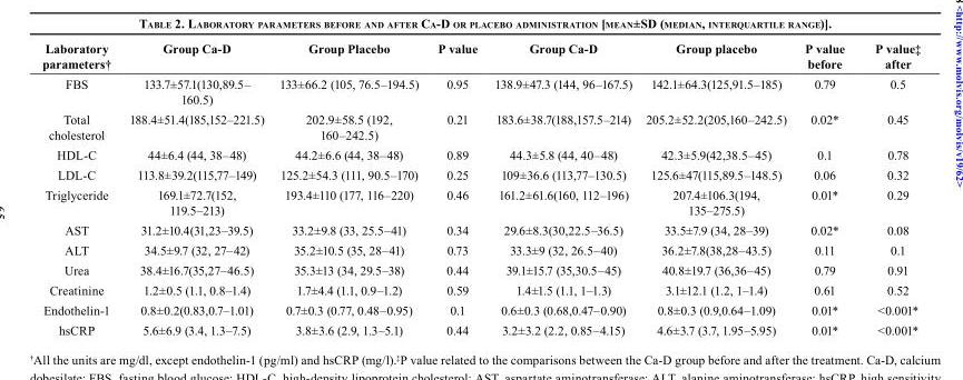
<table><thead><tr><td>Laboratory parameters†</td><td>Group Ca-D</td><td>Group Placebo</td><td>P value</td><td>Group Ca-D</td><td>Group placebo</td><td>P value before</td><td>P value‡ after</td></tr></thead><tbody><tr><td>FBS</td><td>133.7±57.1(130,89.5– 160.5)</td><td>133±66.2 (105, 76.5–194.5)</td><td>0.95</td><td>138.9±47.3 (144, 96–167.5)</td><td>142.1±64.3(125,91.5–185)</td><td>0.79</td><td>0.5</td></tr><tr><td>Total cholesterol</td><td>188.4±51.4(185,152–221.5)</td><td>202.9±58.5 (192, 160–242.5)</td><td>0.21</td><td>183.6±38.7(188,157.5–214)</td><td>205.2±52.2(205,160–242.5)</td><td>0.02*</td><td>0.45</td></tr><tr><td>HDL-C</td><td>44±6.4 (44, 38–48)</td><td>44.2±6.6 (44, 38–48)</td><td>0.89</td><td>44.3±5.8 (44, 40–48)</td><td>42.3±5.9(42,38.5–45)</td><td>0.1</td><td>0.78</td></tr><tr><td>LDL-C</td><td>113.8±39.2(115,77–149)</td><td>125.2±54.3 (111, 90.5–170)</td><td>0.25</td><td>109±36.6 (113,77–130.5)</td><td>125.6±47(115,89.5–148.5)</td><td>0.06</td><td>0.32</td></tr><tr><td>Triglyceride</td><td>169.1±72.7(152, 119.5–213)</td><td>193.4±110 (177, 116–220)</td><td>0.46</td><td>161.2±61.6(160, 112–196)</td><td>207.4±106.3(194, 135–275.5)</td><td>0.01*</td><td>0.29</td></tr><tr><td>AST</td><td>31.2±10.4(31,23–39.5)</td><td>33.2±9.8 (33, 25.5–41)</td><td>0.34</td><td>29.6±8.3(30,22.5–36.5)</td><td>33.5±7.9 (34, 28–39)</td><td>0.02*</td><td>0.08</td></tr><tr><td>ALT</td><td>34.5±9.7 (32, 27–42)</td><td>35.2±10.5 (35, 28–41)</td><td>0.73</td><td>33.3±9 (32, 26.5–40)</td><td>36.2±7.8(38,28–43.5)</td><td>0.11</td><td>0.1</td></tr><tr><td>Urea</td><td>38.4±16.7(35,27–46.5)</td><td>35.3±13 (34, 29.5–38)</td><td>0.44</td><td>39.1±15.7 (35,30.5–45)</td><td>40.8±19.7 (36,36–45)</td><td>0.79</td><td>0.91</td></tr><tr><td>Creatinine</td><td>1.2±0.5 (1.1, 0.8–1.4)</td><td>1.7±4.4 (1.1, 0.9–1.2)</td><td>0.59</td><td>1.4±1.5 (1.1, 1–1.3)</td><td>3.1±12.1 (1.2, 1–1.4)</td><td>0.61</td><td>0.52</td></tr><tr><td>Endothelin-1</td><td>0.8±0.2(0.83,0.7–1.01)</td><td>0.7±0.3 (0.77, 0.48–0.95)</td><td>0.1</td><td>0.6±0.3 (0.68,0.47–0.90)</td><td>0.8±0.3 (0.9,0.64–1.09)</td><td>0.01*</td><td>&lt;0.001*</td></tr><tr><td>hsCRP</td><td>5.6±6.9 (3.4, 1.3–7.5)</td><td>3.8±3.6 (2.9, 1.3–5.1)</td><td>0.44</td><td>3.2±3.2 (2.2, 0.85–4.15)</td><td>4.6±3.7 (3.7, 1.95–5.95)</td><td>0.01*</td><td>&lt;0.001*</td></tr></tbody></table>